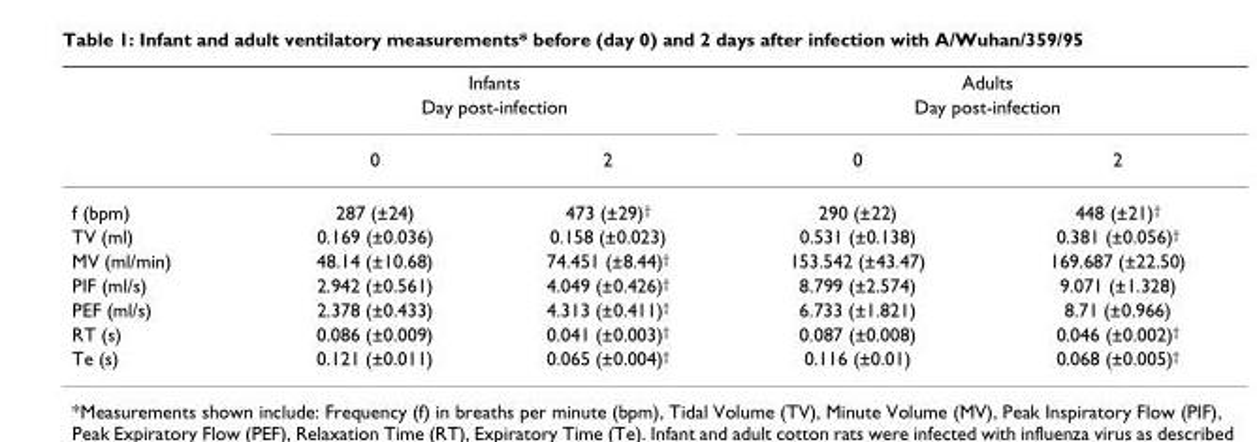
<table><thead><tr><td rowspan="3"></td><td rowspan="2" colspan="2">Infants Day post-infection</td><td rowspan="2" colspan="2">Adults Day post-infection</td></tr><tr></tr><tr><td>0</td><td>2</td><td>0</td><td>2</td></tr></thead><tbody><tr><td>f (bpm)</td><td>287 (±24)</td><td>473 (±29)<sup>†</sup></td><td>290 (±22)</td><td>448 (±21)<sup>†</sup></td></tr><tr><td>TV (ml)</td><td>0.169 (±0.036)</td><td>0.158 (±0.023)</td><td>0.531 (±0.138)</td><td>0.381 (±0.056)<sup>†</sup></td></tr><tr><td>MV (ml/min)</td><td>48.14 (±10.68)</td><td>74.451 (±8.44)<sup>†</sup></td><td>153.542 (±43.47)</td><td>169.687 (±22.50)</td></tr><tr><td>PIF (ml/s)</td><td>2.942 (±0.561)</td><td>4.049 (±0.426)<sup>†</sup></td><td>8.799 (±2.574)</td><td>9.071 (±1.328)</td></tr><tr><td>PEF (ml/s)</td><td>2.378 (±0.433)</td><td>4.313 (±0.411)<sup>†</sup></td><td>6.733 (±1.821)</td><td>8.71 (±0.966)</td></tr><tr><td>RT (s)</td><td>0.086 (±0.009)</td><td>0.041 (±0.003)<sup>†</sup></td><td>0.087 (±0.008)</td><td>0.046 (±0.002)<sup>†</sup></td></tr><tr><td>Te (s)</td><td>0.121 (±0.011)</td><td>0.065 (±0.004)<sup>†</sup></td><td>0.116 (±0.01)</td><td>0.068 (±0.005)<sup>†</sup></td></tr></tbody></table>